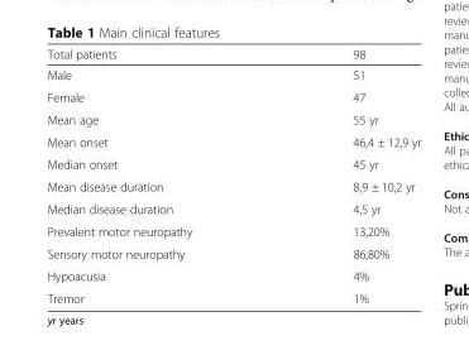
<table><thead><tr><td>Total patients</td><td>98</td></tr></thead><tbody><tr><td>Male</td><td>51</td></tr><tr><td>Female</td><td>47</td></tr><tr><td>Mean age</td><td>55 yr</td></tr><tr><td>Mean onset</td><td>46,4 ± 12,9 yr</td></tr><tr><td>Median onset</td><td>45 yr</td></tr><tr><td>Mean disease duration</td><td>8,9 ± 10,2 yr</td></tr><tr><td>Median disease duration</td><td>4,5 yr</td></tr><tr><td>Prevalent motor neuropathy</td><td>13,20%</td></tr><tr><td>Sensory motor neuropathy</td><td>86,80%</td></tr><tr><td>Hypoacusia</td><td>4%</td></tr><tr><td>Tremor</td><td>1%</td></tr></tbody></table>